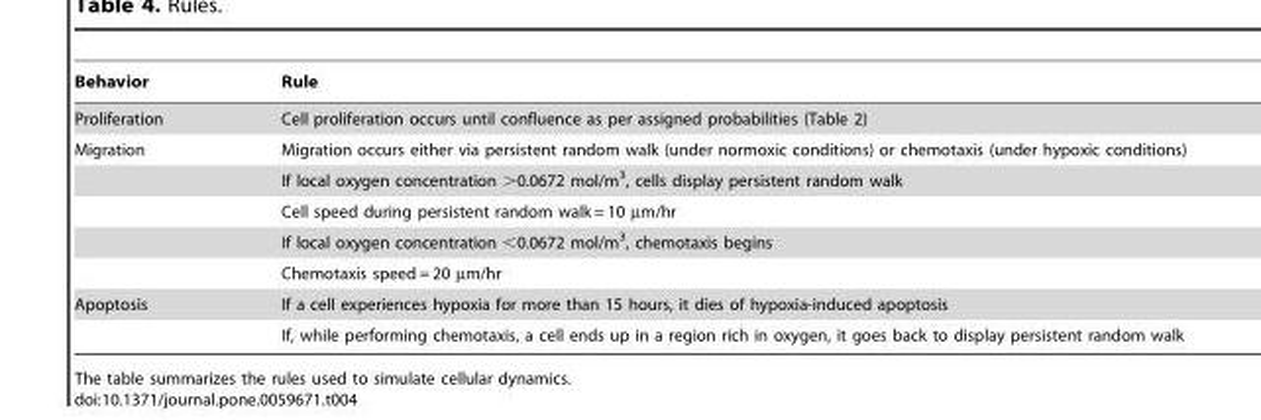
<table><thead><tr><td>Behavior</td><td>Rule</td></tr></thead><tbody><tr><td>Proliferation</td><td>Cell proliferation occurs until confluence as per assigned probabilities (Table 2)</td></tr><tr><td rowspan="5">Migration</td><td>Migration occurs either via persistent random walk (under normoxic conditions) or chemotaxis (under hypoxic conditions)</td></tr><tr><td>If local oxygen concentration &gt;0.0672 mol/m<sup>3</sup>, cells display persistent random walk</td></tr><tr><td>Cell speed during persistent random walk = 10 µm/hr</td></tr><tr><td>If local oxygen concentration &lt;0.0672 mol/m<sup>3</sup>, chemotaxis begins</td></tr><tr><td>Chemotaxis speed = 20 µm/hr</td></tr><tr><td rowspan="2">Apoptosis</td><td>If a cell experiences hypoxia for more than 15 hours, it dies of hypoxia-induced apoptosis</td></tr><tr><td>If, while performing chemotaxis, a cell ends up in a region rich in oxygen, it goes back to display persistent random walk</td></tr></tbody></table>